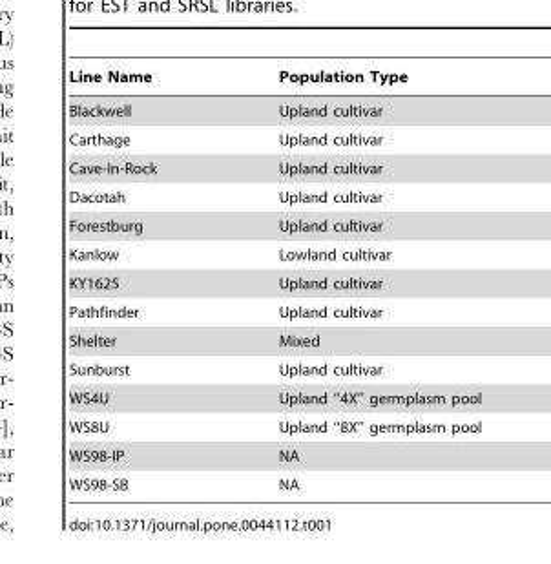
<table><thead><tr><td>Line Name</td><td>Population Type</td></tr></thead><tbody><tr><td>Blackwell</td><td>Upland cultivar</td></tr><tr><td>Carthage</td><td>Upland cultivar</td></tr><tr><td>Cave-In-Rock</td><td>Upland cultivar</td></tr><tr><td>Dacotah</td><td>Upland cultivar</td></tr><tr><td>Forestburg</td><td>Upland cultivar</td></tr><tr><td>Kanlow</td><td>Lowland cultivar</td></tr><tr><td>KY1625</td><td>Upland cultivar</td></tr><tr><td>Pathfinder</td><td>Upland cultivar</td></tr><tr><td>Shelter</td><td>Mixed</td></tr><tr><td>Sunburst</td><td>Upland cultivar</td></tr><tr><td>WS4U</td><td>Upland ‘‘4X’’ germplasm pool</td></tr><tr><td>WS8U</td><td>Upland ‘‘8X’’ germplasm pool</td></tr><tr><td>WS98-IP</td><td>NA</td></tr><tr><td>WS98-SB</td><td>NA</td></tr></tbody></table>